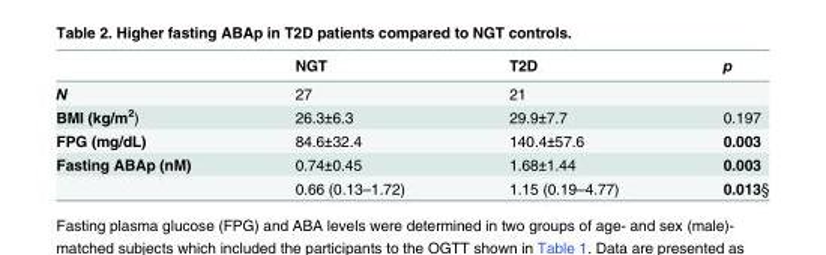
<table><thead><tr><td></td><td>NGT</td><td>T2D</td><td>p</td></tr></thead><tbody><tr><td>N</td><td>27</td><td>21</td><td></td></tr><tr><td>BMI (kg/m<sup>2</sup>)</td><td>26.3±6.3</td><td>29.9±7.7</td><td>0.197</td></tr><tr><td>FPG (mg/dL)</td><td>84.6±32.4</td><td>140.4±57.6</td><td>0.003</td></tr><tr><td rowspan="2">Fasting ABAp (nM)</td><td>0.74±0.45</td><td>1.68±1.44</td><td>0.003</td></tr><tr><td>0.66 (0.13–1.72)</td><td>1.15 (0.19–4.77)</td><td>0.013§</td></tr></tbody></table>